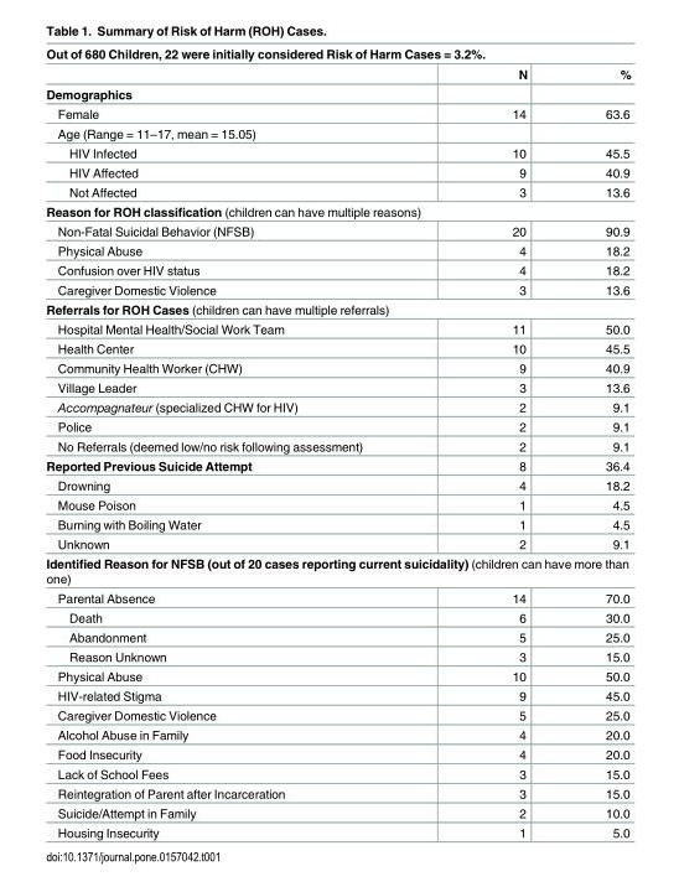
<table><thead><tr><td colspan="3">Out of 680 Children, 22 were initially considered Risk of Harm Cases = 3.2%.</td></tr><tr><td></td><td>N</td><td>%</td></tr></thead><tbody><tr><td colspan="3">Demographics</td></tr><tr><td>Female</td><td>14</td><td>63.6</td></tr><tr><td colspan="3">Age (Range = 11–17, mean = 15.05)</td></tr><tr><td>HIV Infected</td><td>10</td><td>45.5</td></tr><tr><td>HIV Affected</td><td>9</td><td>40.9</td></tr><tr><td>Not Affected</td><td>3</td><td>13.6</td></tr><tr><td colspan="3">Reason for ROH classification (children can have multiple reasons)</td></tr><tr><td>Non-Fatal Suicidal Behavior (NFSB)</td><td>20</td><td>90.9</td></tr><tr><td>Physical Abuse</td><td>4</td><td>18.2</td></tr><tr><td>Confusion over HIV status</td><td>4</td><td>18.2</td></tr><tr><td>Caregiver Domestic Violence</td><td>3</td><td>13.6</td></tr><tr><td colspan="3">Referrals for ROH Cases (children can have multiple referrals)</td></tr><tr><td>Hospital Mental Health/Social Work Team</td><td>11</td><td>50.0</td></tr><tr><td>Health Center</td><td>10</td><td>45.5</td></tr><tr><td>Community Health Worker (CHW)</td><td>9</td><td>40.9</td></tr><tr><td>Village Leader</td><td>3</td><td>13.6</td></tr><tr><td>Accompagnateur (specialized CHW for HIV)</td><td>2</td><td>9.1</td></tr><tr><td>Police</td><td>2</td><td>9.1</td></tr><tr><td>No Referrals (deemed low/no risk following assessment)</td><td>2</td><td>9.1</td></tr><tr><td>Reported Previous Suicide Attempt</td><td>8</td><td>36.4</td></tr><tr><td>Drowning</td><td>4</td><td>18.2</td></tr><tr><td>Mouse Poison</td><td>1</td><td>4.5</td></tr><tr><td>Burning with Boiling Water</td><td>1</td><td>4.5</td></tr><tr><td>Unknown</td><td>2</td><td>9.1</td></tr><tr><td colspan="3">Identified Reason for NFSB (out of 20 cases reporting current suicidality) (children can have more than one)</td></tr><tr><td>Parental Absence</td><td>14</td><td>70.0</td></tr><tr><td>Death</td><td>6</td><td>30.0</td></tr><tr><td>Abandonment</td><td>5</td><td>25.0</td></tr><tr><td>Reason Unknown</td><td>3</td><td>15.0</td></tr><tr><td>Physical Abuse</td><td>10</td><td>50.0</td></tr><tr><td>HIV-related Stigma</td><td>9</td><td>45.0</td></tr><tr><td>Caregiver Domestic Violence</td><td>5</td><td>25.0</td></tr><tr><td>Alcohol Abuse in Family</td><td>4</td><td>20.0</td></tr><tr><td>Food Insecurity</td><td>4</td><td>20.0</td></tr><tr><td>Lack of School Fees</td><td>3</td><td>15.0</td></tr><tr><td>Reintegration of Parent after Incarceration</td><td>3</td><td>15.0</td></tr><tr><td>Suicide/Attempt in Family</td><td>2</td><td>10.0</td></tr><tr><td>Housing Insecurity</td><td>1</td><td>5.0</td></tr></tbody></table>